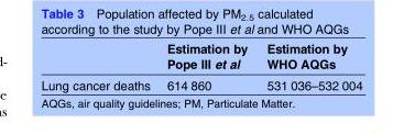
<table><thead><tr><td></td><td>Estimation by Pope III et al</td><td>Estimation by WHO AQGs</td></tr></thead><tbody><tr><td>Lung cancer deaths</td><td>614 860</td><td>531 036–532 004</td></tr></tbody></table>